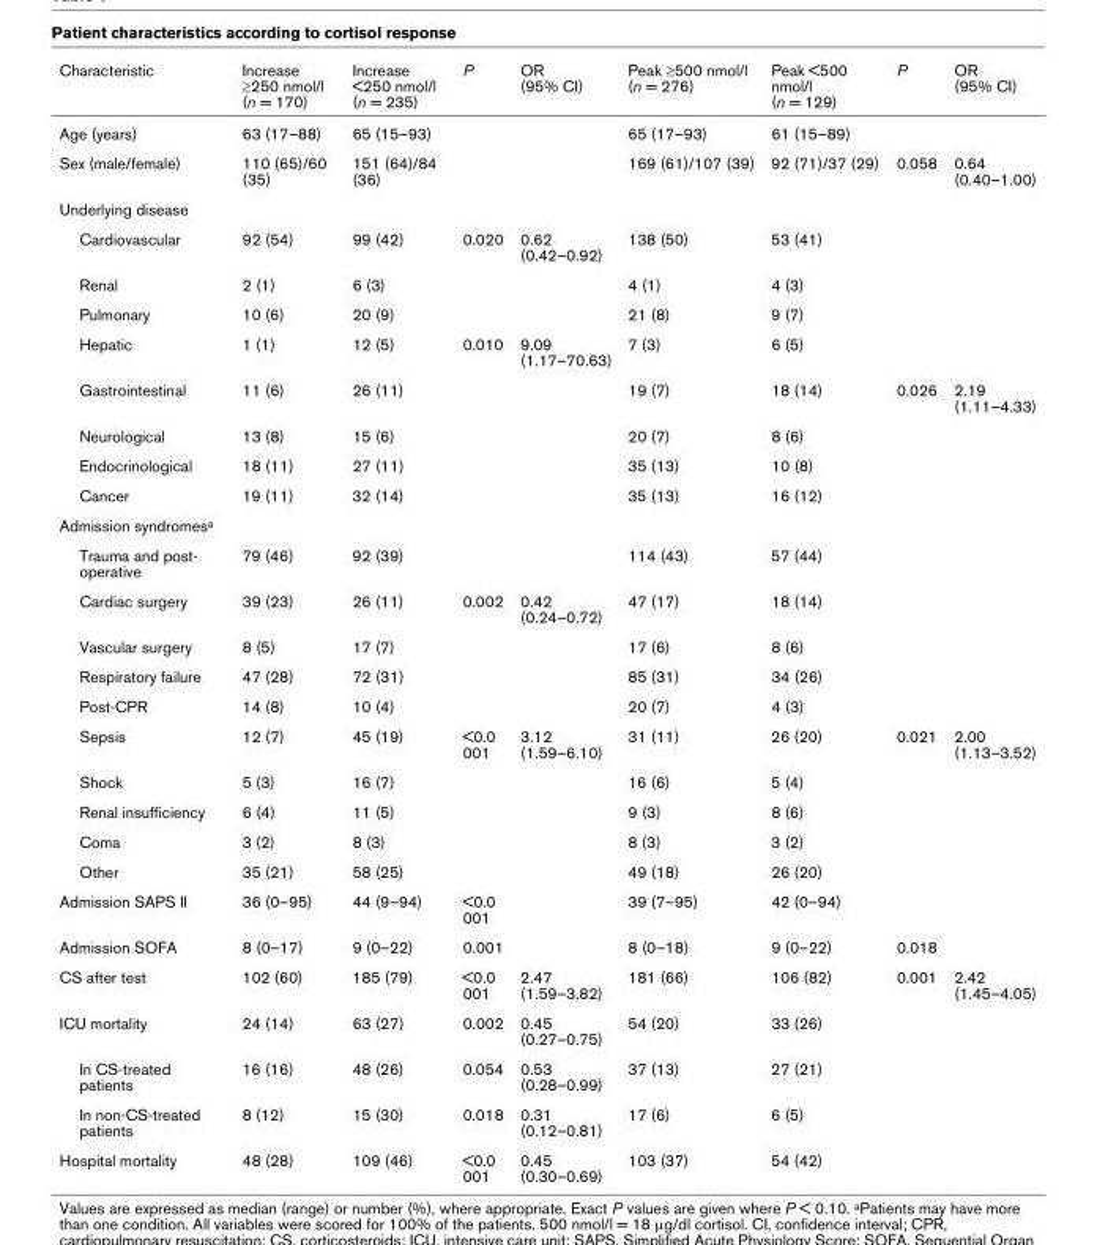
<table><thead><tr><td>Characteristic</td><td>Increase ≥250 nmol/l (n = 170)</td><td>Increase &lt;250 nmol/l (n = 235)</td><td>P</td><td>OR (95% CI)</td><td>Peak ≥500 nmol/l (n = 276)</td><td>Peak &lt;500 nmol/l (n = 129)</td><td>P</td><td>OR (95% CI)</td></tr></thead><tbody><tr><td>Age (years)</td><td>63 (17–88)</td><td>65 (15–93)</td><td></td><td></td><td>65 (17–93)</td><td>61 (15–89)</td><td></td><td></td></tr><tr><td>Sex (male/female)</td><td>110 (65)/60 (35)</td><td>151 (64)/84 (36)</td><td></td><td></td><td>169 (61)/107 (39)</td><td>92 (71)/37 (29)</td><td>0.058</td><td>0.64 (0.40–1.00)</td></tr><tr><td colspan="9">Underlying disease</td></tr><tr><td>Cardiovascular</td><td>92 (54)</td><td>99 (42)</td><td>0.020</td><td>0.62 (0.42–0.92)</td><td>138 (50)</td><td>53 (41)</td><td></td><td></td></tr><tr><td>Renal</td><td>2 (1)</td><td>6 (3)</td><td></td><td></td><td>4 (1)</td><td>4 (3)</td><td></td><td></td></tr><tr><td>Pulmonary</td><td>10 (6)</td><td>20 (9)</td><td></td><td></td><td>21 (8)</td><td>9 (7)</td><td></td><td></td></tr><tr><td>Hepatic</td><td>1 (1)</td><td>12 (5)</td><td>0.010</td><td>9.09 (1.17–70.63)</td><td>7 (3)</td><td>6 (5)</td><td></td><td></td></tr><tr><td>Gastrointestinal</td><td>11 (6)</td><td>26 (11)</td><td></td><td></td><td>19 (7)</td><td>18 (14)</td><td>0.026</td><td>2.19 (1.11–4.33)</td></tr><tr><td>Neurological</td><td>13 (8)</td><td>15 (6)</td><td></td><td></td><td>20 (7)</td><td>8 (6)</td><td></td><td></td></tr><tr><td>Endocrinological</td><td>18 (11)</td><td>27 (11)</td><td></td><td></td><td>35 (13)</td><td>10 (8)</td><td></td><td></td></tr><tr><td>Cancer</td><td>19 (11)</td><td>32 (14)</td><td></td><td></td><td>35 (13)</td><td>16 (12)</td><td></td><td></td></tr><tr><td colspan="9">Admission syndromes<sup>a</sup></td></tr><tr><td>Trauma and post- operative</td><td>79 (46)</td><td>92 (39)</td><td></td><td></td><td>114 (43)</td><td>57 (44)</td><td></td><td></td></tr><tr><td>Cardiac surgery</td><td>39 (23)</td><td>26 (11)</td><td>0.002</td><td>0.42 (0.24–0.72)</td><td>47 (17)</td><td>18 (14)</td><td></td><td></td></tr><tr><td>Vascular surgery</td><td>8 (5)</td><td>17 (7)</td><td></td><td></td><td>17 (6)</td><td>8 (6)</td><td></td><td></td></tr><tr><td>Respiratory failure</td><td>47 (28)</td><td>72 (31)</td><td></td><td></td><td>85 (31)</td><td>34 (26)</td><td></td><td></td></tr><tr><td>Post-CPR</td><td>14 (8)</td><td>10 (4)</td><td></td><td></td><td>20 (7)</td><td>4 (3)</td><td></td><td></td></tr><tr><td>Sepsis</td><td>12 (7)</td><td>45 (19)</td><td>&lt;0.0 001</td><td>3.12 (1.59–6.10)</td><td>31 (11)</td><td>26 (20)</td><td>0.021</td><td>2.00 (1.13–3.52)</td></tr><tr><td>Shock</td><td>5 (3)</td><td>16 (7)</td><td></td><td></td><td>16 (6)</td><td>5 (4)</td><td></td><td></td></tr><tr><td>Renal insufficiency</td><td>6 (4)</td><td>11 (5)</td><td></td><td></td><td>9 (3)</td><td>8 (6)</td><td></td><td></td></tr><tr><td>Coma</td><td>3 (2)</td><td>8 (3)</td><td></td><td></td><td>8 (3)</td><td>3 (2)</td><td></td><td></td></tr><tr><td>Other</td><td>35 (21)</td><td>58 (25)</td><td></td><td></td><td>49 (18)</td><td>26 (20)</td><td></td><td></td></tr><tr><td>Admission SAPS II</td><td>36 (0–95)</td><td>44 (9–94)</td><td>&lt;0.0 001</td><td></td><td>39 (7–95)</td><td>42 (0–94)</td><td></td><td></td></tr><tr><td>Admission SOFA</td><td>8 (0–17)</td><td>9 (0–22)</td><td>0.001</td><td></td><td>8 (0–18)</td><td>9 (0–22)</td><td>0.018</td><td></td></tr><tr><td>CS after test</td><td>102 (60)</td><td>185 (79)</td><td>&lt;0.0 001</td><td>2.47 (1.59–3.82)</td><td>181 (66)</td><td>106 (82)</td><td>0.001</td><td>2.42 (1.45–4.05)</td></tr><tr><td>ICU mortality</td><td>24 (14)</td><td>63 (27)</td><td>0.002</td><td>0.45 (0.27–0.75)</td><td>54 (20)</td><td>33 (26)</td><td></td><td></td></tr><tr><td>In CS-treated patients</td><td>16 (16)</td><td>48 (26)</td><td>0.054</td><td>0.53 (0.28–0.99)</td><td>37 (13)</td><td>27 (21)</td><td></td><td></td></tr><tr><td>In non-CS-treated patients</td><td>8 (12)</td><td>15 (30)</td><td>0.018</td><td>0.31 (0.12–0.81)</td><td>17 (6)</td><td>6 (5)</td><td></td><td></td></tr><tr><td>Hospital mortality</td><td>48 (28)</td><td>109 (46)</td><td>&lt;0.0 001</td><td>0.45 (0.30–0.69)</td><td>103 (37)</td><td>54 (42)</td><td></td><td></td></tr></tbody></table>